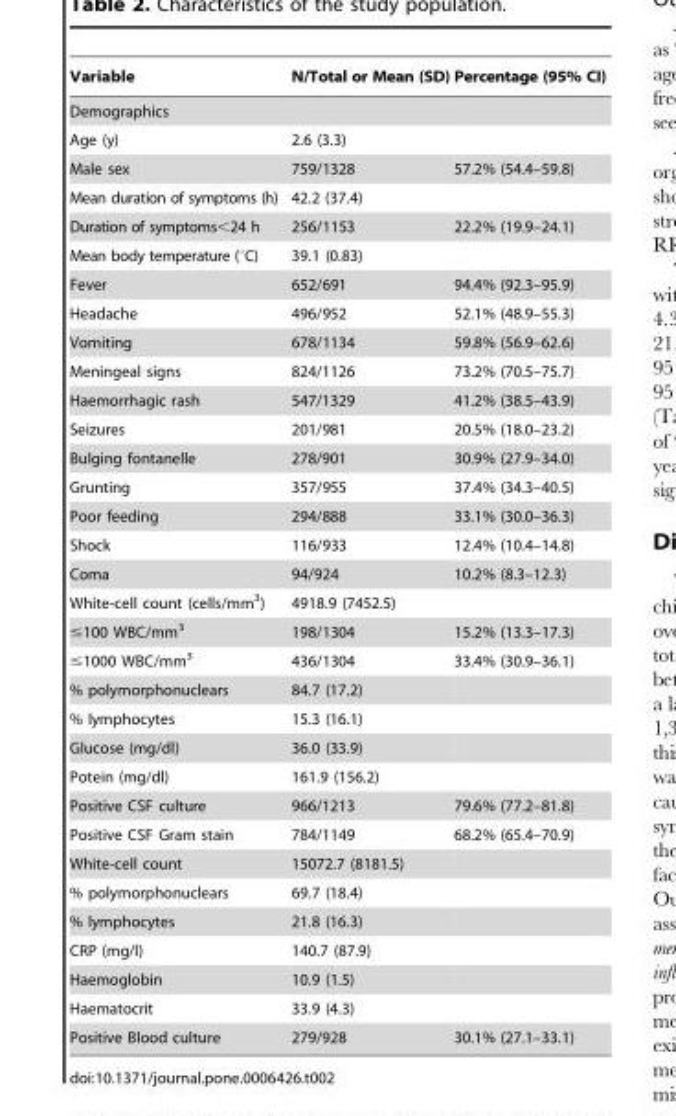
<table><thead><tr><td>Variable</td><td>N/Total or Mean (SD)</td><td>Percentage (95% CI)</td></tr></thead><tbody><tr><td colspan="3">Demographics</td></tr><tr><td>Age (y)</td><td>2.6 (3.3)</td><td></td></tr><tr><td>Male sex</td><td>759/1328</td><td>57.2% (54.4–59.8)</td></tr><tr><td>Mean duration of symptoms (h)</td><td>42.2 (37.4)</td><td></td></tr><tr><td>Duration of symptoms&lt;24 h</td><td>256/1153</td><td>22.2% (19.9–24.1)</td></tr><tr><td>Mean body temperature (°C)</td><td>39.1 (0.83)</td><td></td></tr><tr><td>Fever</td><td>652/691</td><td>94.4% (92.3–95.9)</td></tr><tr><td>Headache</td><td>496/952</td><td>52.1% (48.9–55.3)</td></tr><tr><td>Vomiting</td><td>678/1134</td><td>59.8% (56.9–62.6)</td></tr><tr><td>Meningeal signs</td><td>824/1126</td><td>73.2% (70.5–75.7)</td></tr><tr><td>Haemorrhagic rash</td><td>547/1329</td><td>41.2% (38.5–43.9)</td></tr><tr><td>Seizures</td><td>201/981</td><td>20.5% (18.0–23.2)</td></tr><tr><td>Bulging fontanelle</td><td>278/901</td><td>30.9% (27.9–34.0)</td></tr><tr><td>Grunting</td><td>357/955</td><td>37.4% (34.3–40.5)</td></tr><tr><td>Poor feeding</td><td>294/888</td><td>33.1% (30.0–36.3)</td></tr><tr><td>Shock</td><td>116/933</td><td>12.4% (10.4–14.8)</td></tr><tr><td>Coma</td><td>94/924</td><td>10.2% (8.3–12.3)</td></tr><tr><td>White-cell count (cells/mm<sup>3</sup>)</td><td>4918.9 (7452.5)</td><td></td></tr><tr><td>≤100 WBC/mm<sup>3</sup></td><td>198/1304</td><td>15.2% (13.3–17.3)</td></tr><tr><td>≤1000 WBC/mm<sup>3</sup></td><td>436/1304</td><td>33.4% (30.9–36.1)</td></tr><tr><td>% polymorphonuclears</td><td>84.7 (17.2)</td><td></td></tr><tr><td>% lymphocytes</td><td>15.3 (16.1)</td><td></td></tr><tr><td>Glucose (mg/dl)</td><td>36.0 (33.9)</td><td></td></tr><tr><td>Potein (mg/dl)</td><td>161.9 (156.2)</td><td></td></tr><tr><td>Positive CSF culture</td><td>966/1213</td><td>79.6% (77.2–81.8)</td></tr><tr><td>Positive CSF Gram stain</td><td>784/1149</td><td>68.2% (65.4–70.9)</td></tr><tr><td>White-cell count</td><td>15072.7 (8181.5)</td><td></td></tr><tr><td>% polymorphonuclears</td><td>69.7 (18.4)</td><td></td></tr><tr><td>% lymphocytes</td><td>21.8 (16.3)</td><td></td></tr><tr><td>CRP (mg/l)</td><td>140.7 (87.9)</td><td></td></tr><tr><td>Haemoglobin</td><td>10.9 (1.5)</td><td></td></tr><tr><td>Haematocrit</td><td>33.9 (4.3)</td><td></td></tr><tr><td>Positive Blood culture</td><td>279/928</td><td>30.1% (27.1–33.1)</td></tr></tbody></table>